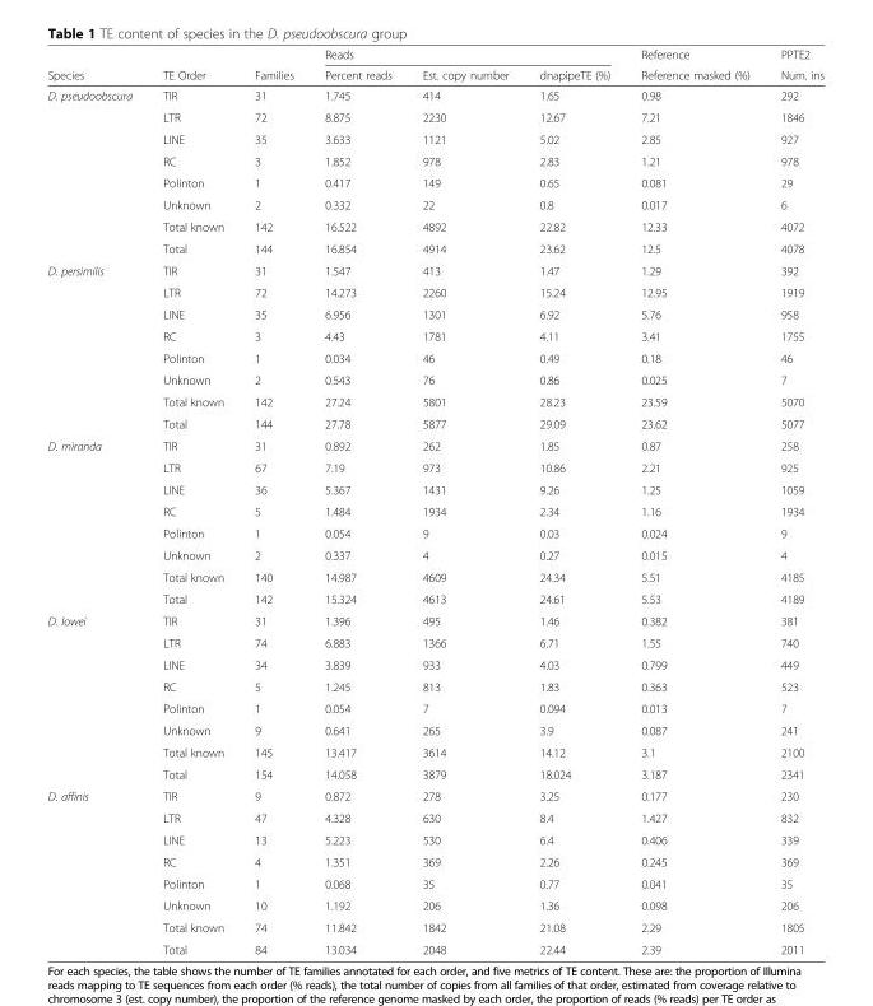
<table><thead><tr><td rowspan="2">Species</td><td rowspan="2">TE Order</td><td rowspan="2">Families</td><td colspan="3">Reads</td><td rowspan="2">Reference Reference masked (%)</td><td rowspan="2">PPTE2 Num. ins</td></tr><tr><td>Percent reads</td><td>Est. copy number</td><td>dnapipeTE (%)</td></tr></thead><tbody><tr><td rowspan="8">D. pseudoobscura</td><td>TIR</td><td>31</td><td>1.745</td><td>414</td><td>1.65</td><td>0.98</td><td>292</td></tr><tr><td>LTR</td><td>72</td><td>8.875</td><td>2230</td><td>12.67</td><td>7.21</td><td>1846</td></tr><tr><td>LINE</td><td>35</td><td>3.633</td><td>1121</td><td>5.02</td><td>2.85</td><td>927</td></tr><tr><td>RC</td><td>3</td><td>1.852</td><td>978</td><td>2.83</td><td>1.21</td><td>978</td></tr><tr><td>Polinton</td><td>1</td><td>0.417</td><td>149</td><td>0.65</td><td>0.081</td><td>29</td></tr><tr><td>Unknown</td><td>2</td><td>0.332</td><td>22</td><td>0.8</td><td>0.017</td><td>6</td></tr><tr><td>Total known</td><td>142</td><td>16.522</td><td>4892</td><td>22.82</td><td>12.33</td><td>4072</td></tr><tr><td>Total</td><td>144</td><td>16.854</td><td>4914</td><td>23.62</td><td>12.5</td><td>4078</td></tr><tr><td rowspan="8">D. persimilis</td><td>TIR</td><td>31</td><td>1.547</td><td>413</td><td>1.47</td><td>1.29</td><td>392</td></tr><tr><td>LTR</td><td>72</td><td>14.273</td><td>2260</td><td>15.24</td><td>12.95</td><td>1919</td></tr><tr><td>LINE</td><td>35</td><td>6.956</td><td>1301</td><td>6.92</td><td>5.76</td><td>958</td></tr><tr><td>RC</td><td>3</td><td>4.43</td><td>1781</td><td>4.11</td><td>3.41</td><td>1755</td></tr><tr><td>Polinton</td><td>1</td><td>0.034</td><td>46</td><td>0.49</td><td>0.18</td><td>46</td></tr><tr><td>Unknown</td><td>2</td><td>0.543</td><td>76</td><td>0.86</td><td>0.025</td><td>7</td></tr><tr><td>Total known</td><td>142</td><td>27.24</td><td>5801</td><td>28.23</td><td>23.59</td><td>5070</td></tr><tr><td>Total</td><td>144</td><td>27.78</td><td>5877</td><td>29.09</td><td>23.62</td><td>5077</td></tr><tr><td rowspan="8">D. miranda</td><td>TIR</td><td>31</td><td>0.892</td><td>262</td><td>1.85</td><td>0.87</td><td>258</td></tr><tr><td>LTR</td><td>67</td><td>7.19</td><td>973</td><td>10.86</td><td>2.21</td><td>925</td></tr><tr><td>LINE</td><td>36</td><td>5.367</td><td>1431</td><td>9.26</td><td>1.25</td><td>1059</td></tr><tr><td>RC</td><td>5</td><td>1.484</td><td>1934</td><td>2.34</td><td>1.16</td><td>1934</td></tr><tr><td>Polinton</td><td>1</td><td>0.054</td><td>9</td><td>0.03</td><td>0.024</td><td>9</td></tr><tr><td>Unknown</td><td>2</td><td>0.337</td><td>4</td><td>0.27</td><td>0.015</td><td>4</td></tr><tr><td>Total known</td><td>140</td><td>14.987</td><td>4609</td><td>24.34</td><td>5.51</td><td>4185</td></tr><tr><td>Total</td><td>142</td><td>15.324</td><td>4613</td><td>24.61</td><td>5.53</td><td>4189</td></tr><tr><td rowspan="8">D. lowei</td><td>TIR</td><td>31</td><td>1.396</td><td>495</td><td>1.46</td><td>0.382</td><td>381</td></tr><tr><td>LTR</td><td>74</td><td>6.883</td><td>1366</td><td>6.71</td><td>1.55</td><td>740</td></tr><tr><td>LINE</td><td>34</td><td>3.839</td><td>933</td><td>4.03</td><td>0.799</td><td>449</td></tr><tr><td>RC</td><td>5</td><td>1.245</td><td>813</td><td>1.83</td><td>0.363</td><td>523</td></tr><tr><td>Polinton</td><td>1</td><td>0.054</td><td>7</td><td>0.094</td><td>0.013</td><td>7</td></tr><tr><td>Unknown</td><td>9</td><td>0.641</td><td>265</td><td>3.9</td><td>0.087</td><td>241</td></tr><tr><td>Total known</td><td>145</td><td>13.417</td><td>3614</td><td>14.12</td><td>3.1</td><td>2100</td></tr><tr><td>Total</td><td>154</td><td>14.058</td><td>3879</td><td>18.024</td><td>3.187</td><td>2341</td></tr><tr><td rowspan="8">D. affinis</td><td>TIR</td><td>9</td><td>0.872</td><td>278</td><td>3.25</td><td>0.177</td><td>230</td></tr><tr><td>LTR</td><td>47</td><td>4.328</td><td>630</td><td>8.4</td><td>1.427</td><td>832</td></tr><tr><td>LINE</td><td>13</td><td>5.223</td><td>530</td><td>6.4</td><td>0.406</td><td>339</td></tr><tr><td>RC</td><td>4</td><td>1.351</td><td>369</td><td>2.26</td><td>0.245</td><td>369</td></tr><tr><td>Polinton</td><td>1</td><td>0.068</td><td>35</td><td>0.77</td><td>0.041</td><td>35</td></tr><tr><td>Unknown</td><td>10</td><td>1.192</td><td>206</td><td>1.36</td><td>0.098</td><td>206</td></tr><tr><td>Total known</td><td>74</td><td>11.842</td><td>1842</td><td>21.08</td><td>2.29</td><td>1805</td></tr><tr><td>Total</td><td>84</td><td>13.034</td><td>2048</td><td>22.44</td><td>2.39</td><td>2011</td></tr></tbody></table>